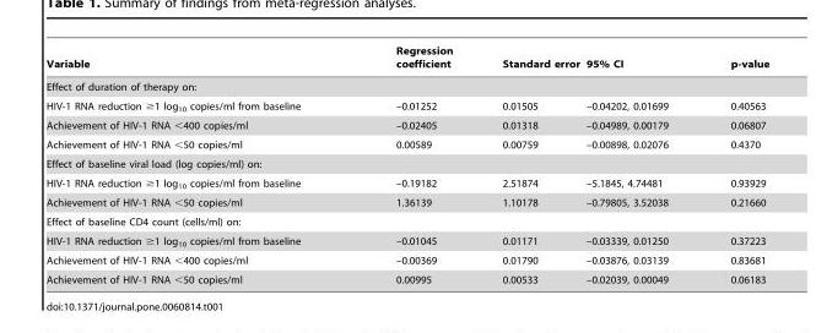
<table><thead><tr><td>Variable</td><td>Regression coefficient</td><td>Standard error</td><td>95% CI</td><td>p-value</td></tr></thead><tbody><tr><td colspan="5">Effect of duration of therapy on:</td></tr><tr><td>HIV-1 RNA reduction ≥1 log<sub>10</sub> copies/ml from baseline</td><td>–0.01252</td><td>0.01505</td><td>–0.04202, 0.01699</td><td>0.40563</td></tr><tr><td>Achievement of HIV-1 RNA &lt;400 copies/ml</td><td>–0.02405</td><td>0.01318</td><td>–0.04989, 0.00179</td><td>0.06807</td></tr><tr><td>Achievement of HIV-1 RNA &lt;50 copies/ml</td><td>0.00589</td><td>0.00759</td><td>–0.00898, 0.02076</td><td>0.4370</td></tr><tr><td colspan="5">Effect of baseline viral load (log copies/ml) on:</td></tr><tr><td>HIV-1 RNA reduction ≥1 log<sub>10</sub> copies/ml from baseline</td><td>–0.19182</td><td>2.51874</td><td>–5.1845, 4.74481</td><td>0.93929</td></tr><tr><td>Achievement of HIV-1 RNA &lt;50 copies/ml</td><td>1.36139</td><td>1.10178</td><td>–0.79805, 3.52038</td><td>0.21660</td></tr><tr><td colspan="5">Effect of baseline CD4 count (cells/ml) on:</td></tr><tr><td>HIV-1 RNA reduction ≥1 log<sub>10</sub> copies/ml from baseline</td><td>–0.01045</td><td>0.01171</td><td>–0.03339, 0.01250</td><td>0.37223</td></tr><tr><td>Achievement of HIV-1 RNA &lt;400 copies/ml</td><td>–0.00369</td><td>0.01790</td><td>–0.03876, 0.03139</td><td>0.83681</td></tr><tr><td>Achievement of HIV-1 RNA &lt;50 copies/ml</td><td>0.00995</td><td>0.00533</td><td>–0.02039, 0.00049</td><td>0.06183</td></tr></tbody></table>